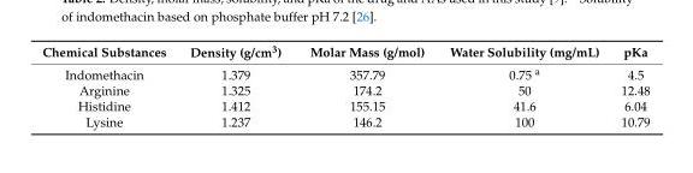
<table><thead><tr><td>Chemical Substances</td><td>Density (g/cm<sup>3</sup>)</td><td>Molar Mass (g/mol)</td><td>Water Solubility (mg/mL)</td><td>pKa</td></tr></thead><tbody><tr><td>Indomethacin</td><td>1.379</td><td>357.79</td><td>0.75 <sup>a</sup></td><td>4.5</td></tr><tr><td>Arginine</td><td>1.325</td><td>174.2</td><td>50</td><td>12.48</td></tr><tr><td>Histidine</td><td>1.412</td><td>155.15</td><td>41.6</td><td>6.04</td></tr><tr><td>Lysine</td><td>1.237</td><td>146.2</td><td>100</td><td>10.79</td></tr></tbody></table>